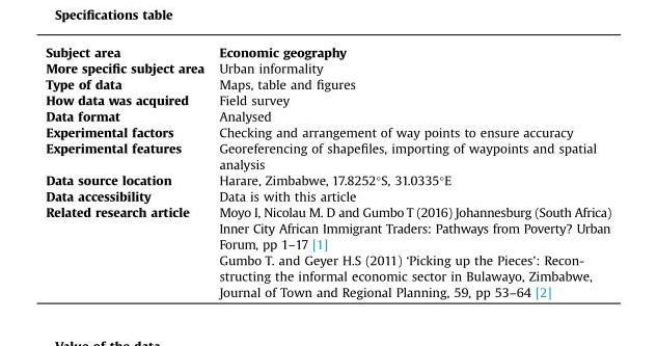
<table><tbody><tr><td>Subject area</td><td>Economic geography</td></tr><tr><td>More specific subject area</td><td>Urban informality</td></tr><tr><td>Type of data</td><td>Maps, table and figures</td></tr><tr><td>How data was acquired</td><td>Field survey</td></tr><tr><td>Data format</td><td>Analysed</td></tr><tr><td>Experimental factors</td><td>Checking and arrangement of way points to ensure accuracy</td></tr><tr><td>Experimental features</td><td>Georeferencing of shapefiles, importing of waypoints and spatial analysis</td></tr><tr><td>Data source location</td><td>Harare, Zimbabwe, 17.8252°S, 31.0335°E</td></tr><tr><td>Data accessibility</td><td>Data is with this article</td></tr><tr><td rowspan="2">Related research article</td><td>Moyo I, Nicolau M. D and Gumbo T (2016) Johannesburg (South Africa) Inner City African Immigrant Traders: Pathways from Poverty? Urban Forum, pp 1–17 [1]</td></tr><tr><td>Gumbo T. and Geyer H.S (2011) ‘Picking up the Pieces’: Recon- structing the informal economic sector in Bulawayo, Zimbabwe, Journal of Town and Regional Planning, 59, pp 53–64 [2]</td></tr></tbody></table>